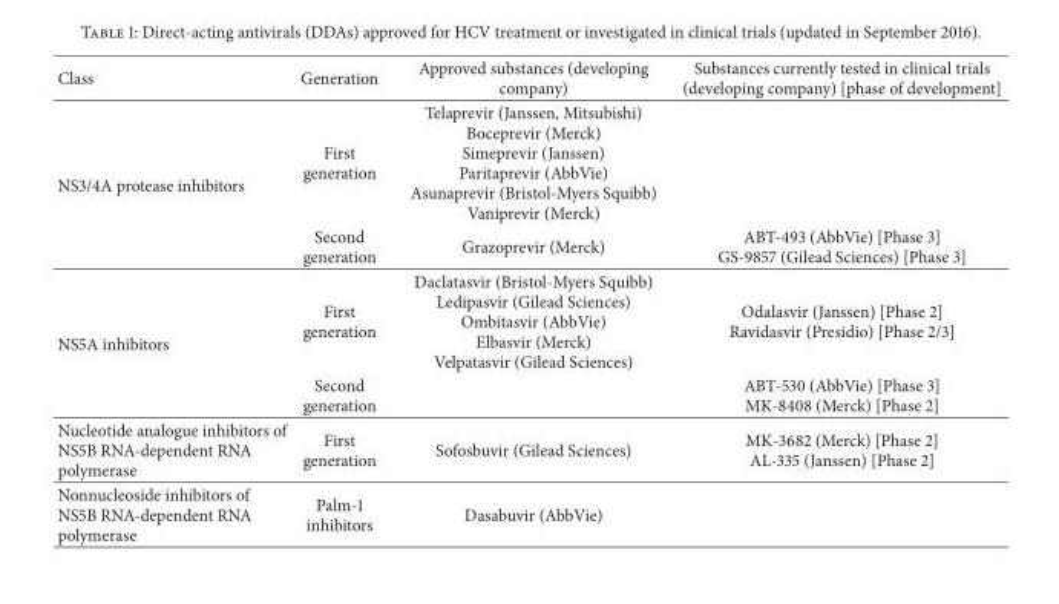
<table><thead><tr><td>Class</td><td>Generation</td><td>Approved substances (developing company)</td><td>Substances currently tested in clinical trials (developing company) [phase of development]</td></tr></thead><tbody><tr><td rowspan="2">NS3/4A protease inhibitors</td><td>First generation</td><td>Telaprevir (Janssen, Mitsubishi) Boceprevir (Merck) Simeprevir (Janssen) Paritaprevir (AbbVie) Asunaprevir (Bristol-Myers Squibb) Vaniprevir (Merck)</td><td></td></tr><tr><td>Second generation</td><td>Grazoprevir (Merck)</td><td>ABT-493 (AbbVie) [Phase 3] GS-9857 (Gilead Sciences) [Phase 3]</td></tr><tr><td rowspan="2">NS5A inhibitors</td><td>First generation</td><td>Daclatasvir (Bristol-Myers Squibb) Ledipasvir (Gilead Sciences) Ombitasvir (AbbVie) Elbasvir (Merck) Velpatasvir (Gilead Sciences)</td><td>Odalasvir (Janssen) [Phase 2] Ravidasvir (Presidio) [Phase 2/3]</td></tr><tr><td>Second generation</td><td></td><td>ABT-530 (AbbVie) [Phase 3] MK-8408 (Merck) [Phase 2]</td></tr><tr><td>Nucleotide analogue inhibitors of NS5B RNA-dependent RNA polymerase</td><td>First generation</td><td>Sofosbuvir (Gilead Sciences)</td><td>MK-3682 (Merck) [Phase 2] AL-335 (Janssen) [Phase 2]</td></tr><tr><td>Nonnucleoside inhibitors of NS5B RNA-dependent RNA polymerase</td><td>Palm-1 inhibitors</td><td>Dasabuvir (AbbVie)</td><td></td></tr></tbody></table>